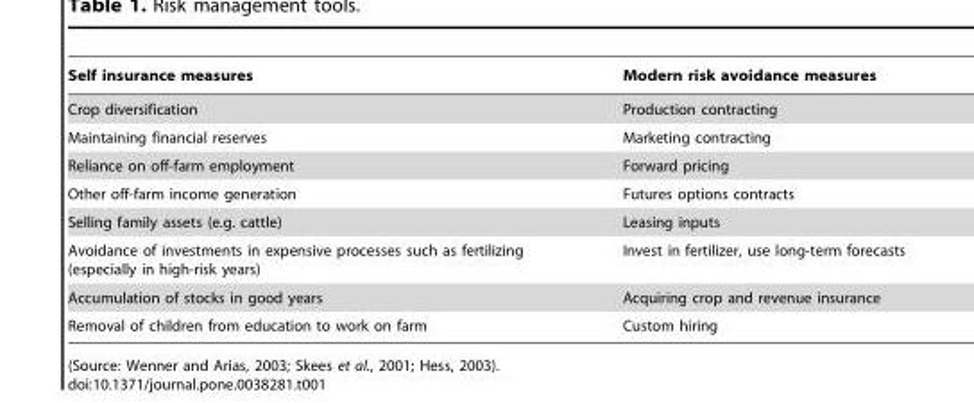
<table><thead><tr><td>Self insurance measures</td><td>Modern risk avoidance measures</td></tr></thead><tbody><tr><td>Crop diversification</td><td>Production contracting</td></tr><tr><td>Maintaining financial reserves</td><td>Marketing contracting</td></tr><tr><td>Reliance on off-farm employment</td><td>Forward pricing</td></tr><tr><td>Other off-farm income generation</td><td>Futures options contracts</td></tr><tr><td>Selling family assets (e.g. cattle)</td><td>Leasing inputs</td></tr><tr><td>Avoidance of investments in expensive processes such as fertilizing (especially in high-risk years)</td><td>Invest in fertilizer, use long-term forecasts</td></tr><tr><td>Accumulation of stocks in good years</td><td>Acquiring crop and revenue insurance</td></tr><tr><td>Removal of children from education to work on farm</td><td>Custom hiring</td></tr></tbody></table>